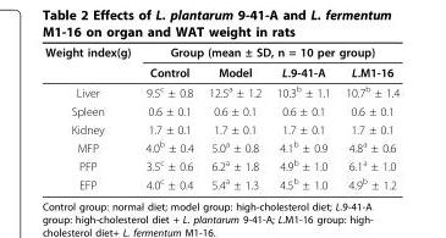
<table><thead><tr><td rowspan="2">Weight index(g)</td><td colspan="4">Group (mean ± SD, n = 10 per group)</td></tr><tr><td>Control</td><td>Model</td><td>L.9-41-A</td><td>L.M1-16</td></tr></thead><tbody><tr><td>Liver</td><td>9.5<sup>c</sup> ± 0.8</td><td>12.5<sup>a</sup> ± 1.2</td><td>10.3<sup>b</sup> ± 1.1</td><td>10.7<sup>b</sup> ± 1.4</td></tr><tr><td>Spleen</td><td>0.6 ± 0.1</td><td>0.6 ± 0.1</td><td>0.6 ± 0.1</td><td>0.6 ± 0.1</td></tr><tr><td>Kidney</td><td>1.7 ± 0.1</td><td>1.7 ± 0.1</td><td>1.7 ± 0.1</td><td>1.7 ± 0.1</td></tr><tr><td>MFP</td><td>4.0<sup>b</sup> ± 0.4</td><td>5.0<sup>a</sup> ± 0.8</td><td>4.1<sup>b</sup> ± 0.9</td><td>4.8<sup>a</sup> ± 0.6</td></tr><tr><td>PFP</td><td>3.5<sup>c</sup> ± 0.6</td><td>6.2<sup>a</sup> ± 1.8</td><td>4.9<sup>b</sup> ± 1.0</td><td>6.1<sup>a</sup> ± 1.0</td></tr><tr><td>EFP</td><td>4.0<sup>c</sup> ± 0.4</td><td>5.4<sup>a</sup> ± 1.3</td><td>4.5<sup>b</sup> ± 1.0</td><td>4.9<sup>b</sup> ± 1.2</td></tr></tbody></table>